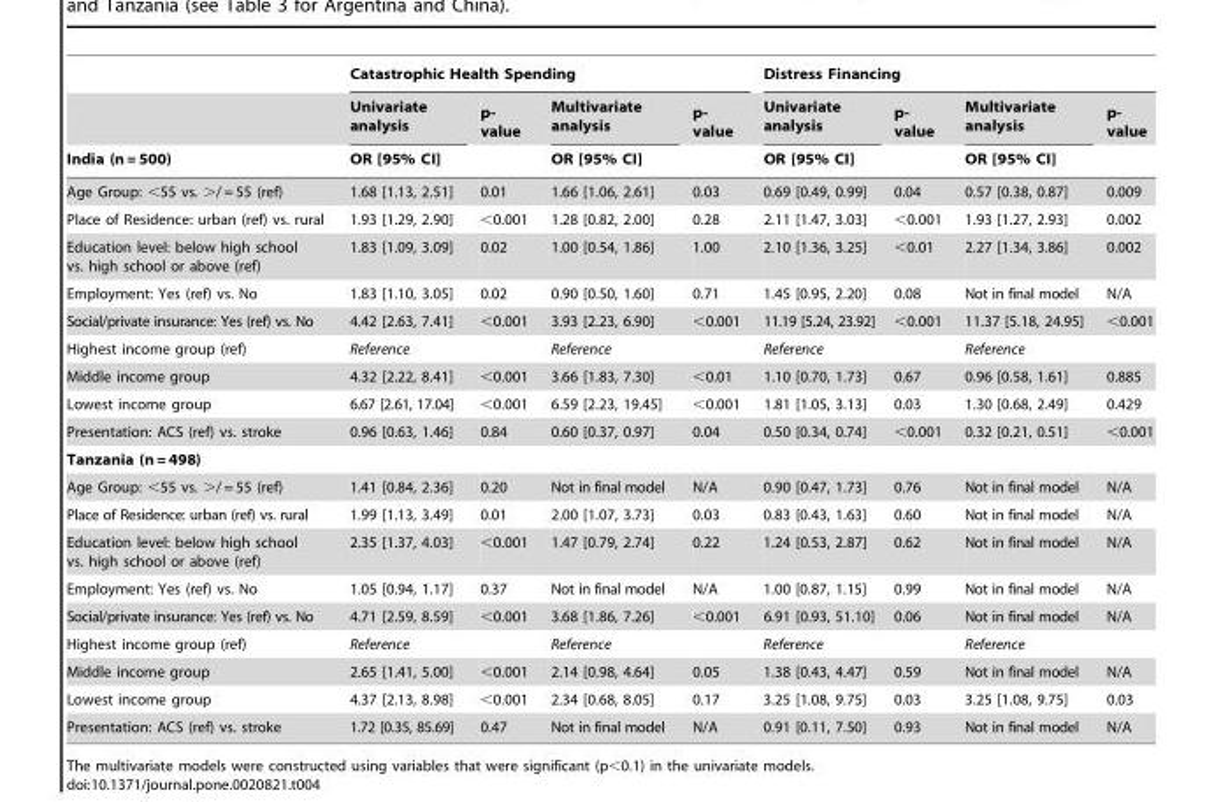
<table><thead><tr><td rowspan="3">India (n = 500)</td><td colspan="4">Catastrophic Health Spending</td><td colspan="4">Distress Financing</td></tr><tr><td rowspan="2">Univariate analysis OR [95% CI]</td><td rowspan="2">p- value</td><td rowspan="2">Multivariate analysis OR [95% CI]</td><td rowspan="2">p- value</td><td rowspan="2">Univariate analysis OR [95% CI]</td><td rowspan="2">p- value</td><td rowspan="2">Multivariate analysis OR [95% CI]</td><td rowspan="2">p- value</td></tr><tr></tr></thead><tbody><tr><td>Age Group: &lt;55 vs. &gt;/ = 55 (ref)</td><td>1.68 [1.13, 2.51]</td><td>0.01</td><td>1.66 [1.06, 2.61]</td><td>0.03</td><td>0.69 [0.49, 0.99]</td><td>0.04</td><td>0.57 [0.38, 0.87]</td><td>0.009</td></tr><tr><td>Place of Residence: urban (ref) vs. rural</td><td>1.93 [1.29, 2.90]</td><td>&lt;0.001</td><td>1.28 [0.82, 2.00]</td><td>0.28</td><td>2.11 [1.47, 3.03]</td><td>&lt;0.001</td><td>1.93 [1.27, 2.93]</td><td>0.002</td></tr><tr><td>Education level: below high school vs. high school or above (ref)</td><td>1.83 [1.09, 3.09]</td><td>0.02</td><td>1.00 [0.54, 1.86]</td><td>1.00</td><td>2.10 [1.36, 3.25]</td><td>&lt;0.01</td><td>2.27 [1.34, 3.86]</td><td>0.002</td></tr><tr><td>Employment: Yes (ref) vs. No</td><td>1.83 [1.10, 3.05]</td><td>0.02</td><td>0.90 [0.50, 1.60]</td><td>0.71</td><td>1.45 [0.95, 2.20]</td><td>0.08</td><td>Not in final model</td><td>N/A</td></tr><tr><td>Social/private insurance: Yes (ref) vs. No</td><td>4.42 [2.63, 7.41]</td><td>&lt;0.001</td><td>3.93 [2.23, 6.90]</td><td>&lt;0.001</td><td>11.19 [5.24, 23.92]</td><td>&lt;0.001</td><td>11.37 [5.18, 24.95]</td><td>&lt;0.001</td></tr><tr><td>Highest income group (ref)</td><td>Reference</td><td></td><td>Reference</td><td></td><td>Reference</td><td></td><td>Reference</td><td></td></tr><tr><td>Middle income group</td><td>4.32 [2.22, 8.41]</td><td>&lt;0.001</td><td>3.66 [1.83, 7.30]</td><td>&lt;0.01</td><td>1.10 [0.70, 1.73]</td><td>0.67</td><td>0.96 [0.58, 1.61]</td><td>0.885</td></tr><tr><td>Lowest income group</td><td>6.67 [2.61, 17.04]</td><td>&lt;0.001</td><td>6.59 [2.23, 19.45]</td><td>&lt;0.001</td><td>1.81 [1.05, 3.13]</td><td>0.03</td><td>1.30 [0.68, 2.49]</td><td>0.429</td></tr><tr><td>Presentation: ACS (ref) vs. stroke</td><td>0.96 [0.63, 1.46]</td><td>0.84</td><td>0.60 [0.37, 0.97]</td><td>0.04</td><td>0.50 [0.34, 0.74]</td><td>&lt;0.001</td><td>0.32 [0.21, 0.51]</td><td>&lt;0.001</td></tr><tr><td colspan="9">Tanzania (n = 498)</td></tr><tr><td>Age Group: &lt;55 vs. &gt;/ = 55 (ref)</td><td>1.41 [0.84, 2.36]</td><td>0.20</td><td>Not in final model</td><td>N/A</td><td>0.90 [0.47, 1.73]</td><td>0.76</td><td>Not in final model</td><td>N/A</td></tr><tr><td>Place of Residence: urban (ref) vs. rural</td><td>1.99 [1.13, 3.49]</td><td>0.01</td><td>2.00 [1.07, 3.73]</td><td>0.03</td><td>0.83 [0.43, 1.63]</td><td>0.60</td><td>Not in final model</td><td>N/A</td></tr><tr><td>Education level: below high school vs. high school or above (ref)</td><td>2.35 [1.37, 4.03]</td><td>&lt;0.001</td><td>1.47 [0.79, 2.74]</td><td>0.22</td><td>1.24 [0.53, 2.87]</td><td>0.62</td><td>Not in final model</td><td>N/A</td></tr><tr><td>Employment: Yes (ref) vs. No</td><td>1.05 [0.94, 1.17]</td><td>0.37</td><td>Not in final model</td><td>N/A</td><td>1.00 [0.87, 1.15]</td><td>0.99</td><td>Not in final model</td><td>N/A</td></tr><tr><td>Social/private insurance: Yes (ref) vs. No</td><td>4.71 [2.59, 8.59]</td><td>&lt;0.001</td><td>3.68 [1.86, 7.26]</td><td>&lt;0.001</td><td>6.91 [0.93, 51.10]</td><td>0.06</td><td>Not in final model</td><td>N/A</td></tr><tr><td>Highest income group (ref)</td><td>Reference</td><td></td><td>Reference</td><td></td><td>Reference</td><td></td><td>Reference</td><td></td></tr><tr><td>Middle income group</td><td>2.65 [1.41, 5.00]</td><td>&lt;0.001</td><td>2.14 [0.98, 4.64]</td><td>0.05</td><td>1.38 [0.43, 4.47]</td><td>0.59</td><td>Not in final model</td><td>N/A</td></tr><tr><td>Lowest income group</td><td>4.37 [2.13, 8.98]</td><td>&lt;0.001</td><td>2.34 [0.68, 8.05]</td><td>0.17</td><td>3.25 [1.08, 9.75]</td><td>0.03</td><td>3.25 [1.08, 9.75]</td><td>0.03</td></tr><tr><td>Presentation: ACS (ref) vs. stroke</td><td>1.72 [0.35, 85.69]</td><td>0.47</td><td>Not in final model</td><td>N/A</td><td>0.91 [0.11, 7.50]</td><td>0.93</td><td>Not in final model</td><td>N/A</td></tr></tbody></table>